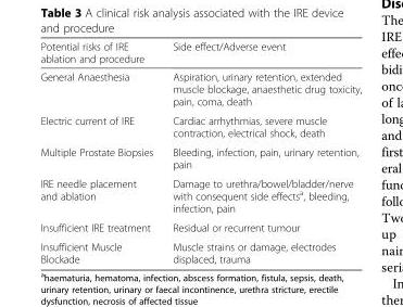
<table><thead><tr><td>Potential risks of IRE ablation and procedure</td><td>Side effect/Adverse event</td></tr></thead><tbody><tr><td>General Anaesthesia</td><td>Aspiration, urinary retention, extended muscle blockage, anaesthetic drug toxicity, pain, coma, death</td></tr><tr><td>Electric current of IRE</td><td>Cardiac arrhythmias, severe muscle contraction, electrical shock, death</td></tr><tr><td>Multiple Prostate Biopsies</td><td>Bleeding, infection, pain, urinary retention, pain</td></tr><tr><td>IRE needle placement and ablation</td><td>Damage to urethra/bowel/bladder/nerve with consequent side effects<sup>a</sup>, bleeding, infection, pain</td></tr><tr><td>Insufficient IRE treatment</td><td>Residual or recurrent tumour</td></tr><tr><td>Insufficient Muscle Blockade</td><td>Muscle strains or damage, electrodes displaced, trauma</td></tr></tbody></table>